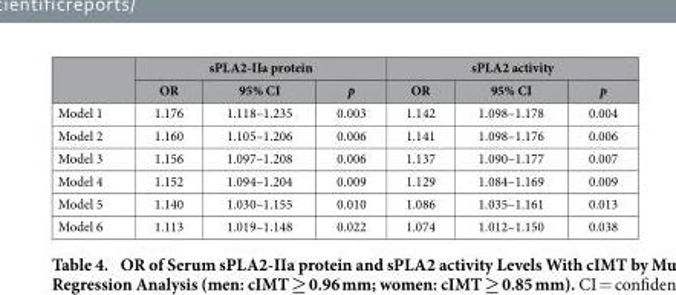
<table><thead><tr><td rowspan="2"></td><td colspan="3">sPLA2-IIa protein</td><td colspan="3">sPLA2 activity</td></tr><tr><td>OR</td><td>95% CI</td><td>p</td><td>OR</td><td>95% CI</td><td>p</td></tr></thead><tbody><tr><td>Model 1</td><td>1.176</td><td>1.118–1.235</td><td>0.003</td><td>1.142</td><td>1.098–1.178</td><td>0.004</td></tr><tr><td>Model 2</td><td>1.160</td><td>1.105–1.206</td><td>0.006</td><td>1.141</td><td>1.098–1.176</td><td>0.006</td></tr><tr><td>Model 3</td><td>1.156</td><td>1.097–1.208</td><td>0.006</td><td>1.137</td><td>1.090–1.177</td><td>0.007</td></tr><tr><td>Model 4</td><td>1.152</td><td>1.094–1.204</td><td>0.009</td><td>1.129</td><td>1.084–1.169</td><td>0.009</td></tr><tr><td>Model 5</td><td>1.140</td><td>1.030–1.155</td><td>0.010</td><td>1.086</td><td>1.035–1.161</td><td>0.013</td></tr><tr><td>Model 6</td><td>1.113</td><td>1.019–1.148</td><td>0.022</td><td>1.074</td><td>1.012–1.150</td><td>0.038</td></tr></tbody></table>